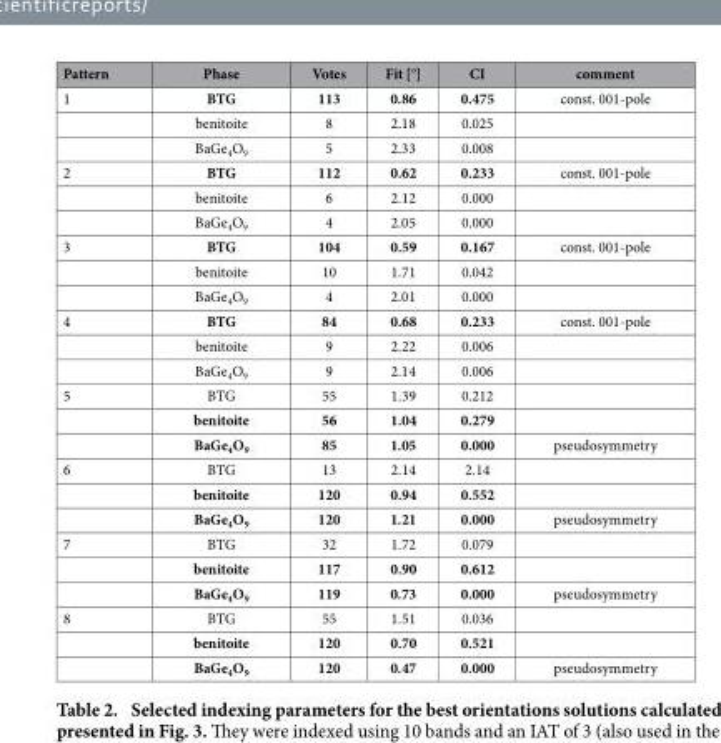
<table><thead><tr><td>Pattern</td><td>Phase</td><td>Votes</td><td>Fit [°]</td><td>CI</td><td>comment</td></tr></thead><tbody><tr><td rowspan="3">1</td><td>BTG</td><td>113</td><td>0.86</td><td>0.475</td><td>const. 001-pole</td></tr><tr><td>benitoite</td><td>8</td><td>2.18</td><td>0.025</td><td></td></tr><tr><td>BaGe<sub>4</sub>O<sub>9</sub></td><td>5</td><td>2.33</td><td>0.008</td><td></td></tr><tr><td rowspan="3">2</td><td>BTG</td><td>112</td><td>0.62</td><td>0.233</td><td>const. 001-pole</td></tr><tr><td>benitoite</td><td>6</td><td>2.12</td><td>0.000</td><td></td></tr><tr><td>BaGe<sub>4</sub>O<sub>9</sub></td><td>4</td><td>2.05</td><td>0.000</td><td></td></tr><tr><td rowspan="3">3</td><td>BTG</td><td>104</td><td>0.59</td><td>0.167</td><td>const. 001-pole</td></tr><tr><td>benitoite</td><td>10</td><td>1.71</td><td>0.042</td><td></td></tr><tr><td>BaGe<sub>4</sub>O<sub>9</sub></td><td>4</td><td>2.01</td><td>0.000</td><td></td></tr><tr><td rowspan="3">4</td><td>BTG</td><td>84</td><td>0.68</td><td>0.233</td><td>const. 001-pole</td></tr><tr><td>benitoite</td><td>9</td><td>2.22</td><td>0.006</td><td></td></tr><tr><td>BaGe<sub>4</sub>O<sub>9</sub></td><td>9</td><td>2.14</td><td>0.006</td><td></td></tr><tr><td rowspan="3">5</td><td>BTG</td><td>55</td><td>1.39</td><td>0.212</td><td></td></tr><tr><td>benitoite</td><td>56</td><td>1.04</td><td>0.279</td><td></td></tr><tr><td>BaGe<sub>4</sub>O<sub>9</sub></td><td>85</td><td>1.05</td><td>0.000</td><td>pseudosymmetry</td></tr><tr><td rowspan="3">6</td><td>BTG</td><td>13</td><td>2.14</td><td>2.14</td><td></td></tr><tr><td>benitoite</td><td>120</td><td>0.94</td><td>0.552</td><td></td></tr><tr><td>BaGe<sub>4</sub>O<sub>9</sub></td><td>120</td><td>1.21</td><td>0.000</td><td>pseudosymmetry</td></tr><tr><td rowspan="3">7</td><td>BTG</td><td>32</td><td>1.72</td><td>0.079</td><td></td></tr><tr><td>benitoite</td><td>117</td><td>0.90</td><td>0.612</td><td></td></tr><tr><td>BaGe<sub>4</sub>O<sub>9</sub></td><td>119</td><td>0.73</td><td>0.000</td><td>pseudosymmetry</td></tr><tr><td rowspan="3">8</td><td>BTG</td><td>55</td><td>1.51</td><td>0.036</td><td></td></tr><tr><td>benitoite</td><td>120</td><td>0.70</td><td>0.521</td><td></td></tr><tr><td>BaGe<sub>4</sub>O<sub>9</sub></td><td>120</td><td>0.47</td><td>0.000</td><td>pseudosymmetry</td></tr></tbody></table>